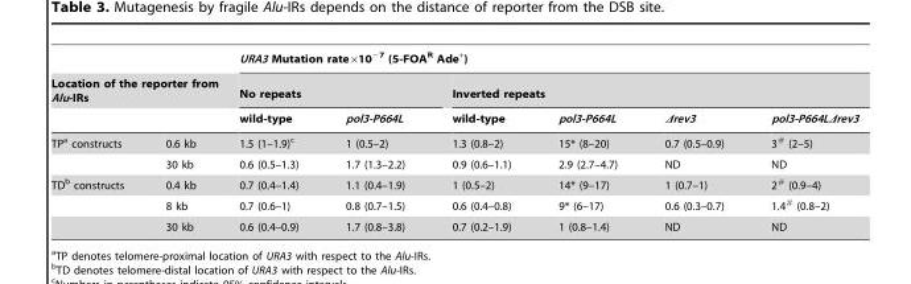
<table><thead><tr><td></td><td></td><td colspan="6">URA3 Mutation rate×10<sup>−7</sup> (5-FOA<sup>R</sup> Ade<sup>+</sup>)</td></tr><tr><td colspan="2">Location of the reporter from Alu-IRs</td><td colspan="2">No repeats</td><td colspan="4">Inverted repeats</td></tr><tr><td></td><td></td><td>wild-type</td><td>pol3-P664L</td><td>wild-type</td><td>pol3-P664L</td><td>Δrev3</td><td>pol3-P664LΔrev3</td></tr></thead><tbody><tr><td rowspan="2">TP<sup>a</sup> constructs</td><td>0.6 kb</td><td>1.5 (1–1.9)<sup>c</sup></td><td>1 (0.5–2)</td><td>1.3 (0.8–2)</td><td>15* (8–20)</td><td>0.7 (0.5–0.9)</td><td>3# (2–5)</td></tr><tr><td>30 kb</td><td>0.6 (0.5–1.3)</td><td>1.7 (1.3–2.2)</td><td>0.9 (0.6–1.1)</td><td>2.9 (2.7–4.7)</td><td>ND</td><td>ND</td></tr><tr><td rowspan="3">TD<sup>b</sup> constructs</td><td>0.4 kb</td><td>0.7 (0.4–1.4)</td><td>1.1 (0.4–1.9)</td><td>1 (0.5–2)</td><td>14* (9–17)</td><td>1 (0.7–1)</td><td>2# (0.9–4)</td></tr><tr><td>8 kb</td><td>0.7 (0.6–1)</td><td>0.8 (0.7–1.5)</td><td>0.6 (0.4–0.8)</td><td>9* (6–17)</td><td>0.6 (0.3–0.7)</td><td>1.4# (0.8–2)</td></tr><tr><td>30 kb</td><td>0.6 (0.4–0.9)</td><td>1.7 (0.8–3.8)</td><td>0.7 (0.2–1.9)</td><td>1 (0.8–1.4)</td><td>ND</td><td>ND</td></tr></tbody></table>